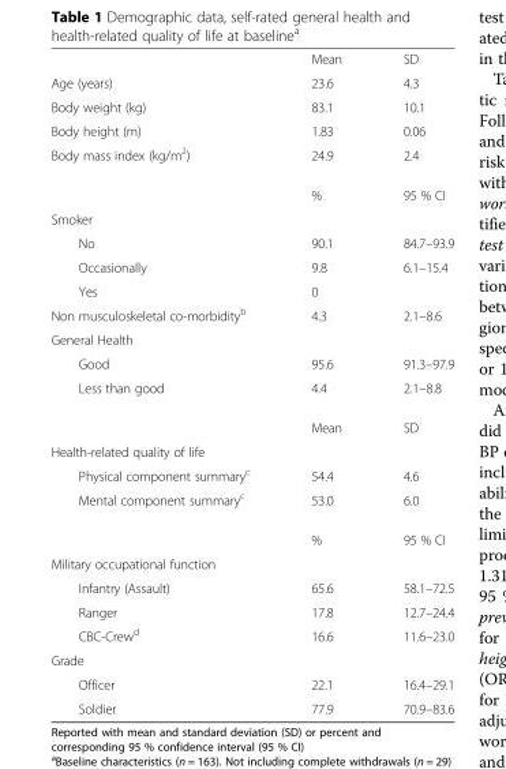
<table><thead><tr><td></td><td>Mean</td><td>SD</td></tr></thead><tbody><tr><td>Age (years)</td><td>23.6</td><td>4.3</td></tr><tr><td>Body weight (kg)</td><td>83.1</td><td>10.1</td></tr><tr><td>Body height (m)</td><td>1.83</td><td>0.06</td></tr><tr><td rowspan="2">Body mass index (kg/m<sup>2</sup>)</td><td>24.9</td><td>2.4</td></tr><tr><td>%</td><td>95 % CI</td></tr><tr><td colspan="3">Smoker</td></tr><tr><td>No</td><td>90.1</td><td>84.7–93.9</td></tr><tr><td>Occasionally</td><td>9.8</td><td>6.1–15.4</td></tr><tr><td>Yes</td><td>0</td><td></td></tr><tr><td>Non musculoskeletal co-morbidity<sup>b</sup></td><td>4.3</td><td>2.1–8.6</td></tr><tr><td colspan="3">General Health</td></tr><tr><td>Good</td><td>95.6</td><td>91.3–97.9</td></tr><tr><td rowspan="2">Less than good</td><td>4.4</td><td>2.1–8.8</td></tr><tr><td>Mean</td><td>SD</td></tr><tr><td colspan="3">Health-related quality of life</td></tr><tr><td>Physical component summary<sup>c</sup></td><td>54.4</td><td>4.6</td></tr><tr><td rowspan="2">Mental component summary<sup>c</sup></td><td>53.0</td><td>6.0</td></tr><tr><td>%</td><td>95 % CI</td></tr><tr><td colspan="3">Military occupational function</td></tr><tr><td>Infantry (Assault)</td><td>65.6</td><td>58.1–72.5</td></tr><tr><td>Ranger</td><td>17.8</td><td>12.7–24.4</td></tr><tr><td>CBC-Crew<sup>d</sup></td><td>16.6</td><td>11.6–23.0</td></tr><tr><td colspan="3">Grade</td></tr><tr><td>Officer</td><td>22.1</td><td>16.4–29.1</td></tr><tr><td>Soldier</td><td>77.9</td><td>70.9–83.6</td></tr></tbody></table>